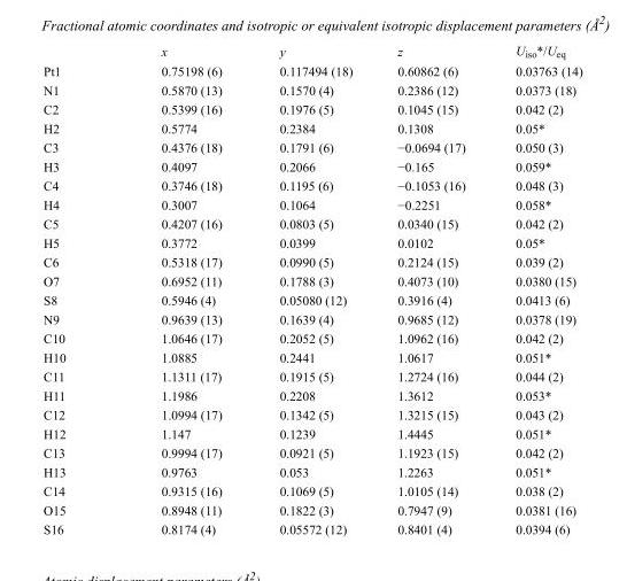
<table><thead><tr><td></td><td>x</td><td>y</td><td>z</td><td>U<sub>iso</sub>*/U<sub>eq</sub></td></tr></thead><tbody><tr><td>Pt1</td><td>0.75198 (6)</td><td>0.117494 (18)</td><td>0.60862 (6)</td><td>0.03763 (14)</td></tr><tr><td>N1</td><td>0.5870 (13)</td><td>0.1570 (4)</td><td>0.2386 (12)</td><td>0.0373 (18)</td></tr><tr><td>C2</td><td>0.5399 (16)</td><td>0.1976 (5)</td><td>0.1045 (15)</td><td>0.042 (2)</td></tr><tr><td>H2</td><td>0.5774</td><td>0.2384</td><td>0.1308</td><td>0.05*</td></tr><tr><td>C3</td><td>0.4376 (18)</td><td>0.1791 (6)</td><td>−0.0694 (17)</td><td>0.050 (3)</td></tr><tr><td>H3</td><td>0.4097</td><td>0.2066</td><td>−0.165</td><td>0.059*</td></tr><tr><td>C4</td><td>0.3746 (18)</td><td>0.1195 (6)</td><td>−0.1053 (16)</td><td>0.048 (3)</td></tr><tr><td>H4</td><td>0.3007</td><td>0.1064</td><td>−0.2251</td><td>0.058*</td></tr><tr><td>C5</td><td>0.4207 (16)</td><td>0.0803 (5)</td><td>0.0340 (15)</td><td>0.042 (2)</td></tr><tr><td>H5</td><td>0.3772</td><td>0.0399</td><td>0.0102</td><td>0.05*</td></tr><tr><td>C6</td><td>0.5318 (17)</td><td>0.0990 (5)</td><td>0.2124 (15)</td><td>0.039 (2)</td></tr><tr><td>O7</td><td>0.6952 (11)</td><td>0.1788 (3)</td><td>0.4073 (10)</td><td>0.0380 (15)</td></tr><tr><td>S8</td><td>0.5946 (4)</td><td>0.05080 (12)</td><td>0.3916 (4)</td><td>0.0413 (6)</td></tr><tr><td>N9</td><td>0.9639 (13)</td><td>0.1639 (4)</td><td>0.9685 (12)</td><td>0.0378 (19)</td></tr><tr><td>C10</td><td>1.0646 (17)</td><td>0.2052 (5)</td><td>1.0962 (16)</td><td>0.042 (2)</td></tr><tr><td>H10</td><td>1.0885</td><td>0.2441</td><td>1.0617</td><td>0.051*</td></tr><tr><td>C11</td><td>1.1311 (17)</td><td>0.1915 (5)</td><td>1.2724 (16)</td><td>0.044 (2)</td></tr><tr><td>H11</td><td>1.1986</td><td>0.2208</td><td>1.3612</td><td>0.053*</td></tr><tr><td>C12</td><td>1.0994 (17)</td><td>0.1342 (5)</td><td>1.3215 (15)</td><td>0.043 (2)</td></tr><tr><td>H12</td><td>1.147</td><td>0.1239</td><td>1.4445</td><td>0.051*</td></tr><tr><td>C13</td><td>0.9994 (17)</td><td>0.0921 (5)</td><td>1.1923 (15)</td><td>0.042 (2)</td></tr><tr><td>H13</td><td>0.9763</td><td>0.053</td><td>1.2263</td><td>0.051*</td></tr><tr><td>C14</td><td>0.9315 (16)</td><td>0.1069 (5)</td><td>1.0105 (14)</td><td>0.038 (2)</td></tr><tr><td>O15</td><td>0.8948 (11)</td><td>0.1822 (3)</td><td>0.7947 (9)</td><td>0.0381 (16)</td></tr><tr><td>S16</td><td>0.8174 (4)</td><td>0.05572 (12)</td><td>0.8401 (4)</td><td>0.0394 (6)</td></tr></tbody></table>